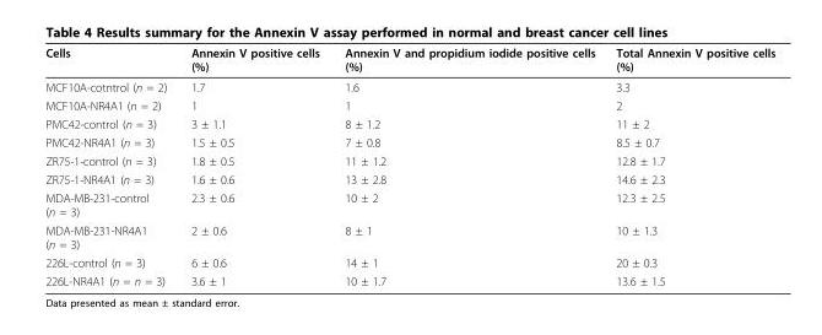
<table><thead><tr><td>Cells</td><td>Annexin V positive cells (%)</td><td>Annexin V and propidium iodide positive cells (%)</td><td>Total Annexin V positive cells (%)</td></tr></thead><tbody><tr><td>MCF10A-cotntrol (n = 2)</td><td>1.7</td><td>1.6</td><td>3.3</td></tr><tr><td>MCF10A-NR4A1 (n = 2)</td><td>1</td><td>1</td><td>2</td></tr><tr><td>PMC42-control (n = 3)</td><td>3 ± 1.1</td><td>8 ± 1.2</td><td>11 ± 2</td></tr><tr><td>PMC42-NR4A1 (n = 3)</td><td>1.5 ± 0.5</td><td>7 ± 0.8</td><td>8.5 ± 0.7</td></tr><tr><td>ZR75-1-control (n = 3)</td><td>1.8 ± 0.5</td><td>11 ± 1.2</td><td>12.8 ± 1.7</td></tr><tr><td>ZR75-1-NR4A1 (n = 3)</td><td>1.6 ± 0.6</td><td>13 ± 2.8</td><td>14.6 ± 2.3</td></tr><tr><td>MDA-MB-231-control (n = 3)</td><td>2.3 ± 0.6</td><td>10 ± 2</td><td>12.3 ± 2.5</td></tr><tr><td>MDA-MB-231-NR4A1 (n = 3)</td><td>2 ± 0.6</td><td>8 ± 1</td><td>10 ± 1.3</td></tr><tr><td>226L-control (n = 3)</td><td>6 ± 0.6</td><td>14 ± 1</td><td>20 ± 0.3</td></tr><tr><td>226L-NR4A1 (n = n = 3)</td><td>3.6 ± 1</td><td>10 ± 1.7</td><td>13.6 ± 1.5</td></tr></tbody></table>